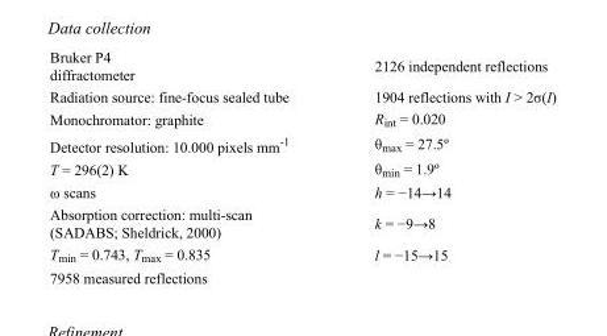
<table><tbody><tr><td>Bruker P4 diffractometer</td><td>2126 independent reflections</td></tr><tr><td>Radiation source: fine-focus sealed tube</td><td>1904 reflections with I &gt; 2σ(I)</td></tr><tr><td>Monochromator: graphite</td><td>R<sub>int</sub> = 0.020</td></tr><tr><td>Detector resolution: 10.000 pixels mm<sup>-1</sup></td><td>θ<sub>max</sub> = 27.5º</td></tr><tr><td>T = 296(2) K</td><td>θ<sub>min</sub> = 1.9º</td></tr><tr><td>ω scans</td><td>h = −14→14</td></tr><tr><td>Absorption correction: multi-scan (SADABS; Sheldrick, 2000)</td><td>k = −9→8</td></tr><tr><td>T<sub>min</sub> = 0.743, T<sub>max</sub> = 0.835</td><td>l = −15→15</td></tr><tr><td>7958 measured reflections</td><td></td></tr></tbody></table>